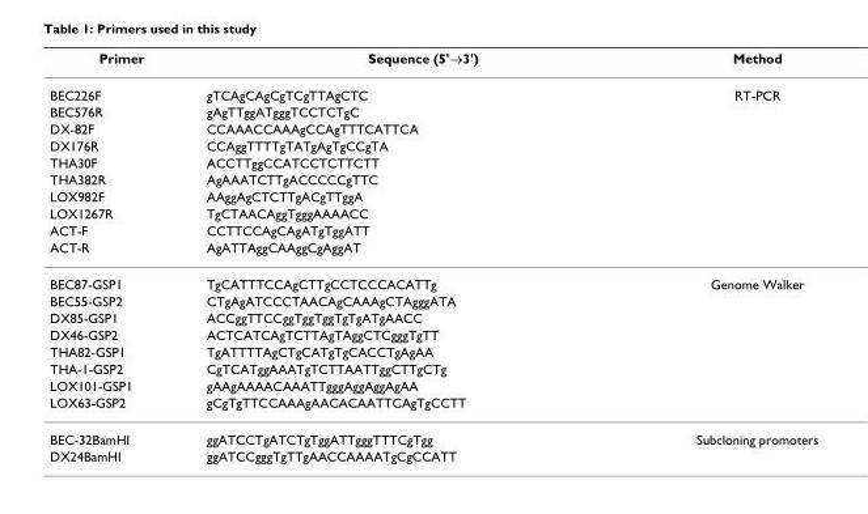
<table><thead><tr><td>Primer</td><td>Sequence (5&#x27;→3&#x27;)</td><td>Method</td></tr></thead><tbody><tr><td>BEC226F</td><td>gTCAgCAgCgTCgTTAgCTC</td><td>RT-PCR</td></tr><tr><td>BEC576R</td><td>gAgTTggATgggTCCTCTgC</td><td></td></tr><tr><td>DX-82F</td><td>CCAAACCAAAgCCAgTTTCATTCA</td><td></td></tr><tr><td>DX176R</td><td>CCAggTTTTgTATgAgTgCCgTA</td><td></td></tr><tr><td>THA30F</td><td>ACCTTggCCATCCTCTTCTT</td><td></td></tr><tr><td>THA382R</td><td>AgAAATCTTgACCCCCgTTC</td><td></td></tr><tr><td>LOX982F</td><td>AAggAgCTCTTgACgTTggA</td><td></td></tr><tr><td>LOX1267R</td><td>TgCTAACAggTgggAAAACC</td><td></td></tr><tr><td>ACT-F</td><td>CCTTCCAgCAgATgTggATT</td><td></td></tr><tr><td>ACT-R</td><td>AgATTAggCAAggCgAggAT</td><td></td></tr><tr><td>BEC87-GSP1</td><td>TgCATTTCCAgCTTgCCTCCCACATTg</td><td>Genome Walker</td></tr><tr><td>BEC55-GSP2</td><td>CTgAgATCCCTAACAgCAAAgCTAgggATA</td><td></td></tr><tr><td>DX85-GSP1</td><td>ACCggTTCCggTggTggTgTgATgAACC</td><td></td></tr><tr><td>DX46-GSP2</td><td>ACTCATCAgTCTTAgTAggCTCgggTgTT</td><td></td></tr><tr><td>THA82-GSP1</td><td>TgATTTTAgCTgCATgTgCACCTgAgAA</td><td></td></tr><tr><td>THA-1-GSP2</td><td>CgTCATggAAATgTCTTAATTggCTTgCTg</td><td></td></tr><tr><td>LOX101-GSP1</td><td>gAAgAAAACAAATTgggAggAggAgAA</td><td></td></tr><tr><td>LOX63-GSP2</td><td>gCgTgTTCCAAAgAACACAATTCAgTgCCTT</td><td></td></tr><tr><td>BEC-32BamHI</td><td>ggATCCTgATCTgTggATTgggTTTCgTgg</td><td>Subcloning promoters</td></tr><tr><td>DX24BamHI</td><td>ggATCCgggTgTTgAACCAAAATgCgCCATT</td><td></td></tr></tbody></table>